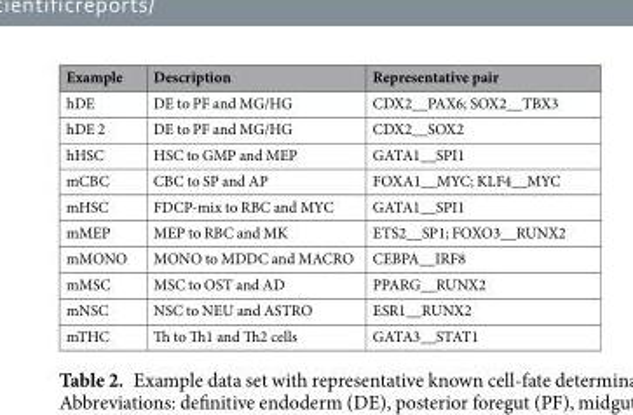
<table><thead><tr><td>Example</td><td>Description</td><td>Representative pair</td></tr></thead><tbody><tr><td>hDE</td><td>DE to PF and MG/HG</td><td>CDX2__PAX6; SOX2__TBX3</td></tr><tr><td>hDE 2</td><td>DE to PF and MG/HG</td><td>CDX2__SOX2</td></tr><tr><td>hHSC</td><td>HSC to GMP and MEP</td><td>GATA1__SPI1</td></tr><tr><td>mCBC</td><td>CBC to SP and AP</td><td>FOXA1__MYC; KLF4__MYC</td></tr><tr><td>mHSC</td><td>FDCP-mix to RBC and MYC</td><td>GATA1__SPI1</td></tr><tr><td>mMEP</td><td>MEP to RBC and MK</td><td>ETS2__SP1; FOXO3__RUNX2</td></tr><tr><td>mMONO</td><td>MONO to MDDC and MACRO</td><td>CEBPA__IRF8</td></tr><tr><td>mMSC</td><td>MSC to OST and AD</td><td>PPARG__RUNX2</td></tr><tr><td>mNSC</td><td>NSC to NEU and ASTRO</td><td>ESR1__RUNX2</td></tr><tr><td>mTHC</td><td>Th to Th1 and Th2 cells</td><td>GATA3__STAT1</td></tr></tbody></table>